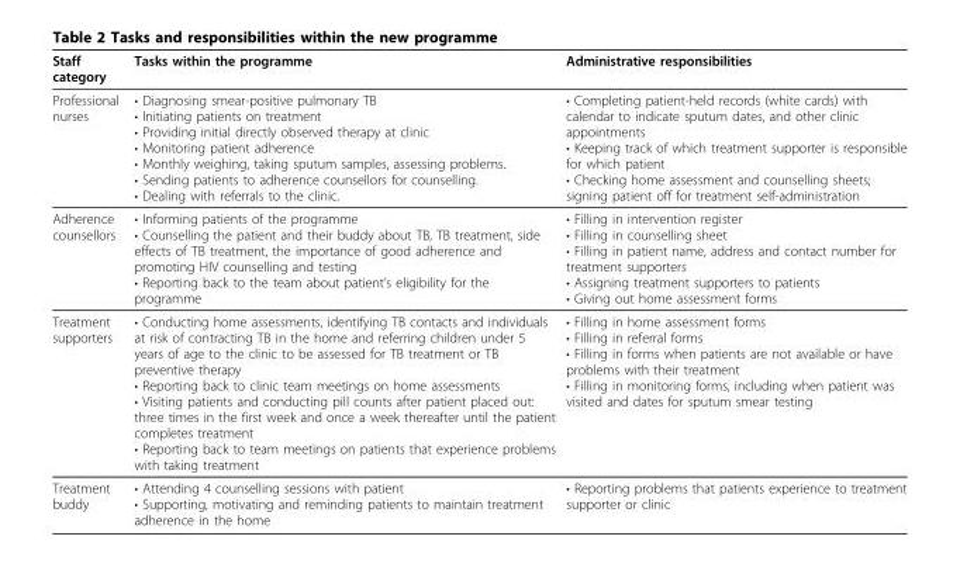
<table><thead><tr><td>Staff category</td><td>Tasks within the programme</td><td>Administrative responsibilities</td></tr></thead><tbody><tr><td>Professional nurses</td><td>• Diagnosing smear-positive pulmonary TB • Initiating patients on treatment • Providing initial directly observed therapy at clinic • Monitoring patient adherence • Monthly weighing, taking sputum samples, assessing problems. • Sending patients to adherence counsellors for counselling. • Dealing with referrals to the clinic.</td><td>• Completing patient-held records (white cards) with calendar to indicate sputum dates, and other clinic appointments • Keeping track of which treatment supporter is responsible for which patient • Checking home assessment and counselling sheets; signing patient off for treatment self-administration</td></tr><tr><td>Adherence counsellors</td><td>• Informing patients of the programme • Counselling the patient and their buddy about TB, TB treatment, side effects of TB treatment, the importance of good adherence and promoting HIV counselling and testing • Reporting back to the team about patient’s eligibility for the programme</td><td>• Filling in intervention register • Filling in counselling sheet • Filling in patient name, address and contact number for treatment supporters • Assigning treatment supporters to patients • Giving out home assessment forms</td></tr><tr><td>Treatment supporters</td><td>• Conducting home assessments, identifying TB contacts and individuals at risk of contracting TB in the home and referring children under 5 years of age to the clinic to be assessed for TB treatment or TB preventive therapy • Reporting back to clinic team meetings on home assessments • Visiting patients and conducting pill counts after patient placed out: three times in the first week and once a week thereafter until the patient completes treatment • Reporting back to team meetings on patients that experience problems with taking treatment</td><td>• Filling in home assessment forms • Filling in referral forms • Filling in forms when patients are not available or have problems with their treatment • Filling in monitoring forms, including when patient was visited and dates for sputum smear testing</td></tr><tr><td>Treatment buddy</td><td>• Attending 4 counselling sessions with patient • Supporting, motivating and reminding patients to maintain treatment adherence in the home</td><td>• Reporting problems that patients experience to treatment supporter or clinic</td></tr></tbody></table>